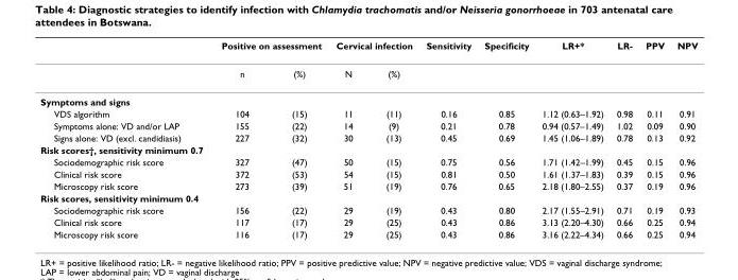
<table><thead><tr><td rowspan="2"></td><td colspan="2">Positive on assessment</td><td colspan="2">Cervical infection</td><td rowspan="2">Sensitivity</td><td rowspan="2">Specificity</td><td rowspan="2">LR+*</td><td rowspan="2">LR-</td><td rowspan="2">PPV</td><td rowspan="2">NPV</td></tr><tr><td>n</td><td>(%)</td><td>N</td><td>(%)</td></tr></thead><tbody><tr><td colspan="11">Symptoms and signs</td></tr><tr><td>VDS algorithm</td><td>104</td><td>(15)</td><td>11</td><td>(11)</td><td>0.16</td><td>0.85</td><td>1.12 (0.63–1.92)</td><td>0.98</td><td>0.11</td><td>0.91</td></tr><tr><td>Symptoms alone: VD and/or LAP</td><td>155</td><td>(22)</td><td>14</td><td>(9)</td><td>0.21</td><td>0.78</td><td>0.94 (0.57–1.49)</td><td>1.02</td><td>0.09</td><td>0.90</td></tr><tr><td>Signs alone: VD (excl. candidiasis)</td><td>227</td><td>(32)</td><td>30</td><td>(13)</td><td>0.45</td><td>0.69</td><td>1.45 (1.06–1.89)</td><td>0.78</td><td>0.13</td><td>0.92</td></tr><tr><td colspan="11">Risk scores†, sensitivity minimum 0.7</td></tr><tr><td>Sociodemographic risk score</td><td>327</td><td>(47)</td><td>50</td><td>(15)</td><td>0.75</td><td>0.56</td><td>1.71 (1.42–1.99)</td><td>0.45</td><td>0.15</td><td>0.96</td></tr><tr><td>Clinical risk score</td><td>372</td><td>(53)</td><td>54</td><td>(15)</td><td>0.81</td><td>0.50</td><td>1.61 (1.37–1.83)</td><td>0.39</td><td>0.15</td><td>0.96</td></tr><tr><td>Microscopy risk score</td><td>273</td><td>(39)</td><td>51</td><td>(19)</td><td>0.76</td><td>0.65</td><td>2.18 (1.80–2.55)</td><td>0.37</td><td>0.19</td><td>0.96</td></tr><tr><td colspan="11">Risk scores, sensitivity minimum 0.4</td></tr><tr><td>Sociodemographic risk score</td><td>156</td><td>(22)</td><td>29</td><td>(19)</td><td>0.43</td><td>0.80</td><td>2.17 (1.55–2.91)</td><td>0.71</td><td>0.19</td><td>0.93</td></tr><tr><td>Clinical risk score</td><td>117</td><td>(17)</td><td>29</td><td>(25)</td><td>0.43</td><td>0.86</td><td>3.13 (2.20–4.30)</td><td>0.66</td><td>0.25</td><td>0.94</td></tr><tr><td>Microscopy risk score</td><td>116</td><td>(17)</td><td>29</td><td>(25)</td><td>0.43</td><td>0.86</td><td>3.16 (2.22–4.34)</td><td>0.66</td><td>0.25</td><td>0.94</td></tr></tbody></table>